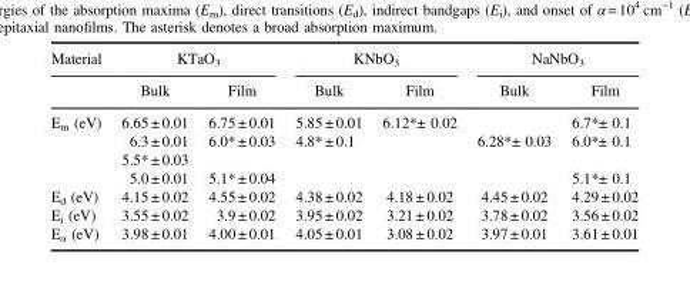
<table><thead><tr><td rowspan="2">Material</td><td colspan="2">KTaO<sub>3</sub></td><td colspan="2">KNbO<sub>3</sub></td><td colspan="2">NaNbO<sub>3</sub></td></tr><tr><td>Bulk</td><td>Film</td><td>Bulk</td><td>Film</td><td>Bulk</td><td>Film</td></tr></thead><tbody><tr><td rowspan="4">E<sub>m</sub> (eV)</td><td>6.65 ± 0.01</td><td>6.75 ± 0.01</td><td>5.85 ± 0.01</td><td>6.12*± 0.02</td><td></td><td>6.7*± 0.1</td></tr><tr><td>6.3 ± 0.01</td><td>6.0* ± 0.03</td><td>4.8* ± 0.1</td><td></td><td>6.28*± 0.03</td><td>6.0*± 0.1</td></tr><tr><td>5.5* ± 0.03</td><td></td><td></td><td></td><td></td><td></td></tr><tr><td>5.0 ± 0.01</td><td>5.1* ± 0.04</td><td></td><td></td><td></td><td>5.1*± 0.1</td></tr><tr><td>E<sub>d</sub> (eV)</td><td>4.15 ± 0.02</td><td>4.55 ± 0.02</td><td>4.38 ± 0.02</td><td>4.18 ± 0.02</td><td>4.45 ± 0.02</td><td>4.29 ± 0.02</td></tr><tr><td>E<sub>i</sub> (eV)</td><td>3.55 ± 0.02</td><td>3.9 ± 0.02</td><td>3.95 ± 0.02</td><td>3.21 ± 0.02</td><td>3.78 ± 0.02</td><td>3.56 ± 0.02</td></tr><tr><td>E<sub>α</sub> (eV)</td><td>3.98 ± 0.01</td><td>4.00 ± 0.01</td><td>4.05 ± 0.01</td><td>3.08 ± 0.02</td><td>3.97 ± 0.01</td><td>3.61 ± 0.01</td></tr></tbody></table>